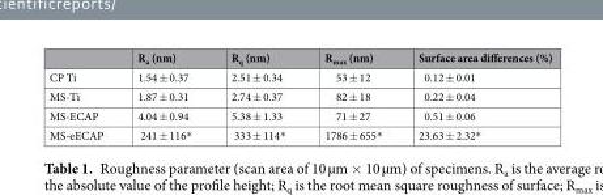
<table><thead><tr><td></td><td>R<sub>a</sub> (nm)</td><td>R<sub>q</sub> (nm)</td><td>R<sub>max</sub> (nm)</td><td>Surface area differences (%)</td></tr></thead><tbody><tr><td>CP Ti</td><td>1.54 ± 0.37</td><td>2.51 ± 0.34</td><td>53 ± 12</td><td>0.12 ± 0.01</td></tr><tr><td>MS-Ti</td><td>1.87 ± 0.31</td><td>2.74 ± 0.37</td><td>82 ± 18</td><td>0.22 ± 0.04</td></tr><tr><td>MS-ECAP</td><td>4.04 ± 0.94</td><td>5.38 ± 1.33</td><td>71 ± 27</td><td>0.51 ± 0.06</td></tr><tr><td>MS-eECAP</td><td>241 ± 116*</td><td>333 ± 114*</td><td>1786 ± 655*</td><td>23.63 ± 2.32*</td></tr></tbody></table>